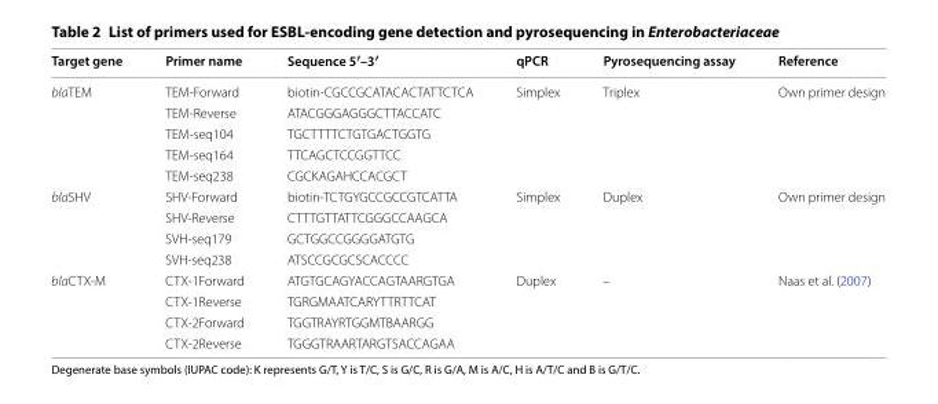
<table><thead><tr><td>Target gene</td><td>Primer name</td><td>Sequence 5′–3′</td><td>qPCR</td><td>Pyrosequencing assay</td><td>Reference</td></tr></thead><tbody><tr><td rowspan="5">blaTEM</td><td>TEM‑Forward</td><td>biotin‑CGCCGCATACACTATTCTCA</td><td rowspan="5">Simplex</td><td rowspan="5">Triplex</td><td rowspan="5">Own primer design</td></tr><tr><td>TEM‑Reverse</td><td>ATACGGGAGGGCTTACCATC</td></tr><tr><td>TEM‑seq104</td><td>TGCTTTTCTGTGACTGGTG</td></tr><tr><td>TEM‑seq164</td><td>TTCAGCTCCGGTTCC</td></tr><tr><td>TEM‑seq238</td><td>CGCKAGAHCCACGCT</td></tr><tr><td rowspan="4">blaSHV</td><td>SHV‑Forward</td><td>biotin‑TCTGYGCCGCCGTCATTA</td><td rowspan="4">Simplex</td><td rowspan="4">Duplex</td><td rowspan="4">Own primer design</td></tr><tr><td>SHV‑Reverse</td><td>CTTTGTTATTCGGGCCAAGCA</td></tr><tr><td>SVH‑seq179</td><td>GCTGGCCGGGGATGTG</td></tr><tr><td>SVH‑seq238</td><td>ATSCCGCGCSCACCCC</td></tr><tr><td rowspan="4">blaCTX‑M</td><td>CTX‑1Forward</td><td>ATGTGCAGYACCAGTAARGTGA</td><td rowspan="4">Duplex</td><td rowspan="4">–</td><td rowspan="4">Naas et al. (2007)</td></tr><tr><td>CTX‑1Reverse</td><td>TGRGMAATCARYTTRTTCAT</td></tr><tr><td>CTX‑2Forward</td><td>TGGTRAYRTGGMTBAARGG</td></tr><tr><td>CTX‑2Reverse</td><td>TGGGTRAARTARGTSACCAGAA</td></tr></tbody></table>